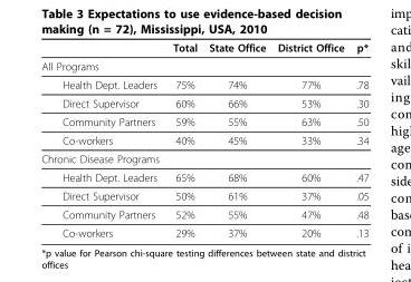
<table><thead><tr><td></td><td>Total</td><td>State Office</td><td>District Office</td><td>p*</td></tr></thead><tbody><tr><td colspan="5">All Programs</td></tr><tr><td>Health Dept. Leaders</td><td>75%</td><td>74%</td><td>77%</td><td>.78</td></tr><tr><td>Direct Supervisor</td><td>60%</td><td>66%</td><td>53%</td><td>.30</td></tr><tr><td>Community Partners</td><td>59%</td><td>55%</td><td>63%</td><td>.50</td></tr><tr><td>Co-workers</td><td>40%</td><td>45%</td><td>33%</td><td>.34</td></tr><tr><td colspan="5">Chronic Disease Programs</td></tr><tr><td>Health Dept. Leaders</td><td>65%</td><td>68%</td><td>60%</td><td>.47</td></tr><tr><td>Direct Supervisor</td><td>50%</td><td>61%</td><td>37%</td><td>.05</td></tr><tr><td>Community Partners</td><td>52%</td><td>55%</td><td>47%</td><td>.48</td></tr><tr><td>Co-workers</td><td>29%</td><td>37%</td><td>20%</td><td>.13</td></tr></tbody></table>